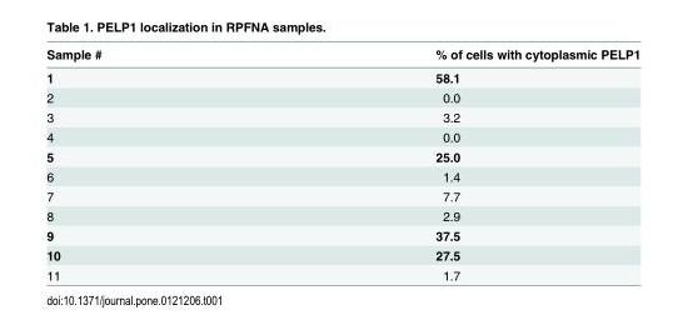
<table><thead><tr><td>Sample #</td><td>% of cells with cytoplasmic PELP1</td></tr></thead><tbody><tr><td>1</td><td>58.1</td></tr><tr><td>2</td><td>0.0</td></tr><tr><td>3</td><td>3.2</td></tr><tr><td>4</td><td>0.0</td></tr><tr><td>5</td><td>25.0</td></tr><tr><td>6</td><td>1.4</td></tr><tr><td>7</td><td>7.7</td></tr><tr><td>8</td><td>2.9</td></tr><tr><td>9</td><td>37.5</td></tr><tr><td>10</td><td>27.5</td></tr><tr><td>11</td><td>1.7</td></tr></tbody></table>